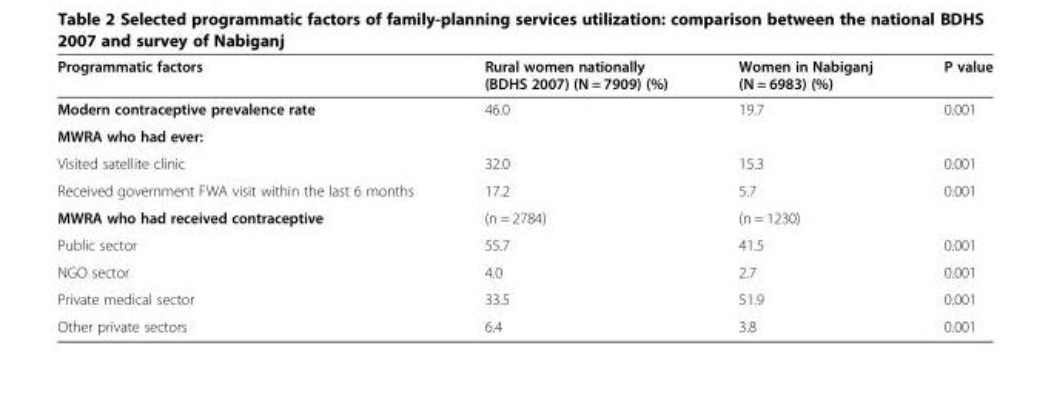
<table><thead><tr><td>Programmatic factors</td><td>Rural women nationally (BDHS 2007) (N = 7909) (%)</td><td>Women in Nabiganj (N = 6983) (%)</td><td>P value</td></tr></thead><tbody><tr><td>Modern contraceptive prevalence rate</td><td>46.0</td><td>19.7</td><td>0.001</td></tr><tr><td colspan="4">MWRA who had ever:</td></tr><tr><td>Visited satellite clinic</td><td>32.0</td><td>15.3</td><td>0.001</td></tr><tr><td>Received government FWA visit within the last 6 months</td><td>17.2</td><td>5.7</td><td>0.001</td></tr><tr><td>MWRA who had received contraceptive</td><td>(n = 2784)</td><td>(n = 1230)</td><td></td></tr><tr><td>Public sector</td><td>55.7</td><td>41.5</td><td>0.001</td></tr><tr><td>NGO sector</td><td>4.0</td><td>2.7</td><td>0.001</td></tr><tr><td>Private medical sector</td><td>33.5</td><td>51.9</td><td>0.001</td></tr><tr><td>Other private sectors</td><td>6.4</td><td>3.8</td><td>0.001</td></tr></tbody></table>